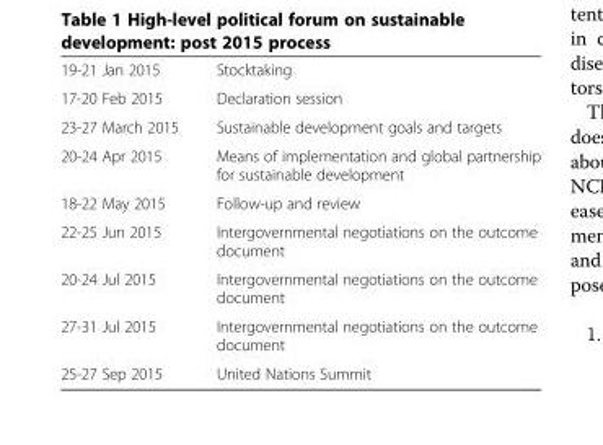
<table><tbody><tr><td>19-21 Jan 2015</td><td>Stocktaking</td></tr><tr><td>17-20 Feb 2015</td><td>Declaration session</td></tr><tr><td>23-27 March 2015</td><td>Sustainable development goals and targets</td></tr><tr><td>20-24 Apr 2015</td><td>Means of implementation and global partnership for sustainable development</td></tr><tr><td>18-22 May 2015</td><td>Follow-up and review</td></tr><tr><td>22-25 Jun 2015</td><td>Intergovernmental negotiations on the outcome document</td></tr><tr><td>20-24 Jul 2015</td><td>Intergovernmental negotiations on the outcome document</td></tr><tr><td>27-31 Jul 2015</td><td>Intergovernmental negotiations on the outcome document</td></tr><tr><td>25-27 Sep 2015</td><td>United Nations Summit</td></tr></tbody></table>